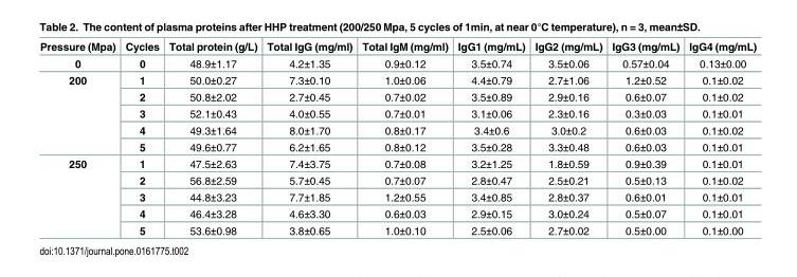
<table><thead><tr><td>Pressure (Mpa)</td><td>Cycles</td><td>Total protein (g/L)</td><td>Total IgG (mg/ml)</td><td>Total IgM (mg/ml)</td><td>IgG1 (mg/mL)</td><td>IgG2 (mg/mL)</td><td>IgG3 (mg/mL)</td><td>IgG4 (mg/mL)</td></tr></thead><tbody><tr><td>0</td><td>0</td><td>48.9±1.17</td><td>4.2±1.35</td><td>0.9±0.12</td><td>3.5±0.74</td><td>3.5±0.06</td><td>0.57±0.04</td><td>0.13±0.00</td></tr><tr><td rowspan="5">200</td><td>1</td><td>50.0±0.27</td><td>7.3±0.10</td><td>1.0±0.06</td><td>4.4±0.79</td><td>2.7±1.06</td><td>1.2±0.52</td><td>0.1±0.02</td></tr><tr><td>2</td><td>50.8±2.02</td><td>2.7±0.45</td><td>0.7±0.02</td><td>3.5±0.89</td><td>2.9±0.16</td><td>0.6±0.07</td><td>0.1±0.02</td></tr><tr><td>3</td><td>52.1±0.43</td><td>4.0±0.55</td><td>0.7±0.01</td><td>3.1±0.06</td><td>2.3±0.16</td><td>0.3±0.03</td><td>0.1±0.01</td></tr><tr><td>4</td><td>49.3±1.64</td><td>8.0±1.70</td><td>0.8±0.17</td><td>3.4±0.6</td><td>3.0±0.2</td><td>0.6±0.03</td><td>0.1±0.02</td></tr><tr><td>5</td><td>49.6±0.77</td><td>6.2±1.65</td><td>0.8±0.12</td><td>3.5±0.28</td><td>3.3±0.48</td><td>0.6±0.03</td><td>0.1±0.01</td></tr><tr><td rowspan="5">250</td><td>1</td><td>47.5±2.63</td><td>7.4±3.75</td><td>0.7±0.08</td><td>3.2±1.25</td><td>1.8±0.59</td><td>0.9±0.39</td><td>0.1±0.01</td></tr><tr><td>2</td><td>56.8±2.59</td><td>5.7±0.45</td><td>0.7±0.07</td><td>2.8±0.47</td><td>2.5±0.21</td><td>0.5±0.13</td><td>0.1±0.02</td></tr><tr><td>3</td><td>44.8±3.23</td><td>7.7±1.85</td><td>1.2±0.55</td><td>3.4±0.85</td><td>2.8±0.37</td><td>0.6±0.01</td><td>0.1±0.01</td></tr><tr><td>4</td><td>46.4±3.28</td><td>4.6±3.30</td><td>0.6±0.03</td><td>2.9±0.15</td><td>3.0±0.24</td><td>0.5±0.07</td><td>0.1±0.01</td></tr><tr><td>5</td><td>53.6±0.98</td><td>3.8±0.65</td><td>1.0±0.10</td><td>2.5±0.06</td><td>2.7±0.02</td><td>0.5±0.00</td><td>0.1±0.00</td></tr></tbody></table>